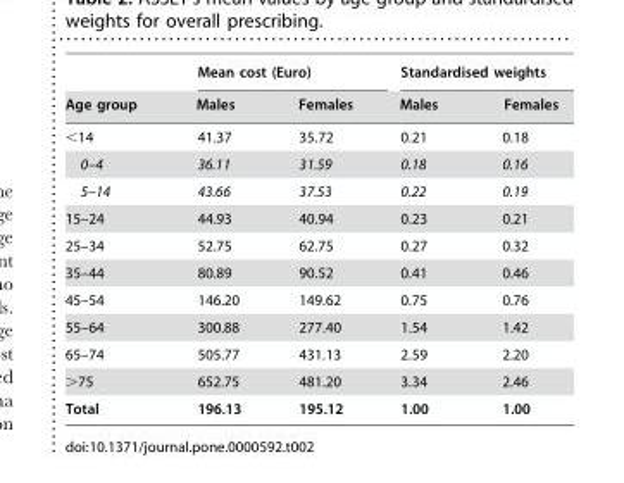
<table><thead><tr><td rowspan="2">Age group</td><td colspan="2">Mean cost (Euro)</td><td colspan="2">Standardised weights</td></tr><tr><td>Males</td><td>Females</td><td>Males</td><td>Females</td></tr></thead><tbody><tr><td>&lt;14</td><td>41.37</td><td>35.72</td><td>0.21</td><td>0.18</td></tr><tr><td>0–4</td><td>36.11</td><td>31.59</td><td>0.18</td><td>0.16</td></tr><tr><td>5–14</td><td>43.66</td><td>37.53</td><td>0.22</td><td>0.19</td></tr><tr><td>15–24</td><td>44.93</td><td>40.94</td><td>0.23</td><td>0.21</td></tr><tr><td>25–34</td><td>52.75</td><td>62.75</td><td>0.27</td><td>0.32</td></tr><tr><td>35–44</td><td>80.89</td><td>90.52</td><td>0.41</td><td>0.46</td></tr><tr><td>45–54</td><td>146.20</td><td>149.62</td><td>0.75</td><td>0.76</td></tr><tr><td>55–64</td><td>300.88</td><td>277.40</td><td>1.54</td><td>1.42</td></tr><tr><td>65–74</td><td>505.77</td><td>431.13</td><td>2.59</td><td>2.20</td></tr><tr><td>&gt;75</td><td>652.75</td><td>481.20</td><td>3.34</td><td>2.46</td></tr><tr><td>Total</td><td>196.13</td><td>195.12</td><td>1.00</td><td>1.00</td></tr></tbody></table>